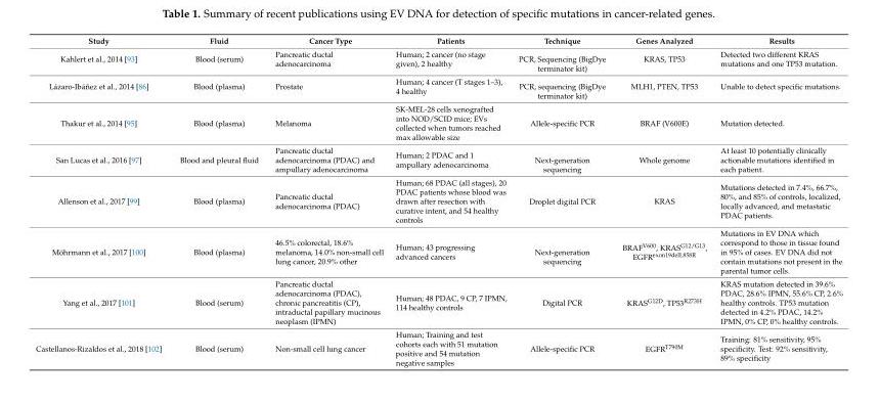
<table><thead><tr><td>Study</td><td>Fluid</td><td>Cancer Type</td><td>Patients</td><td>Technique</td><td>Genes Analyzed</td><td>Results</td></tr></thead><tbody><tr><td>Kahlert et al., 2014 [93]</td><td>Blood (serum)</td><td>Pancreatic ductal adenocarcinoma</td><td>Human; 2 cancer (no stage given), 2 healthy</td><td>PCR, Sequencing (BigDye terminator kit)</td><td>KRAS, TP53</td><td>Detected two different KRAS mutations and one TP53 mutation.</td></tr><tr><td>Lázaro-Ibáñez et al., 2014 [86]</td><td>Blood (plasma)</td><td>Prostate</td><td>Human; 4 cancer (T stages 1–3), 4 healthy</td><td>PCR, sequencing (BigDye terminator kit)</td><td>MLH1, PTEN, TP53</td><td>Unable to detect specific mutations.</td></tr><tr><td>Thakur et al., 2014 [95]</td><td>Blood (plasma)</td><td>Melanoma</td><td>SK-MEL-28 cells xenografted into NOD/SCID mice; EVs collected when tumors reached max allowable size</td><td>Allele-specific PCR</td><td>BRAF (V600E)</td><td>Mutation detected.</td></tr><tr><td>San Lucas et al., 2016 [97]</td><td>Blood and pleural fluid</td><td>Pancreatic ductal adenocarcinoma (PDAC) and ampullary adenocarcinoma</td><td>Human; 2 PDAC and 1 ampullary adenocarcinoma</td><td>Next-generation sequencing</td><td>Whole genome</td><td>At least 10 potentially clinically actionable mutations identified in each patient.</td></tr><tr><td>Allenson et al., 2017 [99]</td><td>Blood (plasma)</td><td>Pancreatic ductal adenocarcinoma (PDAC)</td><td>Human; 68 PDAC (all stages), 20 PDAC patients whose blood was drawn after resection with curative intent, and 54 healthy controls</td><td>Droplet digital PCR</td><td>KRAS</td><td>Mutations detected in 7.4%, 66.7%, 80%, and 85% of controls, localized, locally advanced, and metastatic PDAC patients.</td></tr><tr><td>Möhrmann et al., 2017 [100]</td><td>Blood (plasma)</td><td>46.5% colorectal, 18.6% melanoma, 14.0% non-small cell lung cancer, 20.9% other</td><td>Human; 43 progressing advanced cancers</td><td>Next-generation sequencing</td><td>BRAF<sup>V600</sup>, KRAS<sup>G12/G13</sup>, EGFR<sup>exon19delL858R</sup></td><td>Mutations in EV DNA which correspond to those in tissue found in 95% of cases. EV DNA did not contain mutations not present in the parental tumor cells.</td></tr><tr><td>Yang et al., 2017 [101]</td><td>Blood (serum)</td><td>Pancreatic ductal adenocarcinoma (PDAC), chronic pancreatitis (CP), intraductal papillary mucinous neoplasm (IPMN)</td><td>Human; 48 PDAC, 9 CP, 7 IPMN, 114 healthy controls</td><td>Digital PCR</td><td>KRAS<sup>G12D</sup>, TP53<sup>R273H</sup></td><td>KRAS mutation detected in 39.6% PDAC, 28.6% IPMN, 55.6% CP, 2.6% healthy controls. TP53 mutation detected in 4.2% PDAC, 14.2% IPMN, 0% CP, 0% healthy controls.</td></tr><tr><td>Castellanos-Rizaldos et al., 2018 [102]</td><td>Blood (serum)</td><td>Non-small cell lung cancer</td><td>Human; Training and test cohorts each with 51 mutation positive and 54 mutation negative samples</td><td>Allele-specific PCR</td><td>EGFR<sup>T790M</sup></td><td>Training: 81% sensitivity, 95% specificity. Test: 92% sensitivity, 89% specificity</td></tr></tbody></table>